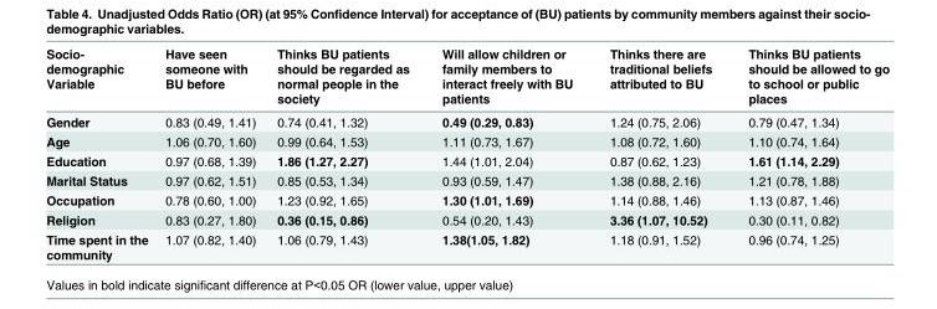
<table><thead><tr><td>Socio- demographic Variable</td><td>Have seen someone with BU before</td><td>Thinks BU patients should be regarded as normal people in the society</td><td>Will allow children or family members to interact freely with BU patients</td><td>Thinks there are traditional beliefs attributed to BU</td><td>Thinks BU patients should be allowed to go to school or public places</td></tr></thead><tbody><tr><td>Gender</td><td>0.83 (0.49, 1.41)</td><td>0.74 (0.41, 1.32)</td><td>0.49 (0.29, 0.83)</td><td>1.24 (0.75, 2.06)</td><td>0.79 (0.47, 1.34)</td></tr><tr><td>Age</td><td>1.06 (0.70, 1.60)</td><td>0.99 (0.64, 1.53)</td><td>1.11 (0.73, 1.67)</td><td>1.08 (0.72, 1.60)</td><td>1.10 (0.74, 1.64)</td></tr><tr><td>Education</td><td>0.97 (0.68, 1.39)</td><td>1.86 (1.27, 2.27)</td><td>1.44 (1.01, 2.04)</td><td>0.87 (0.62, 1.23)</td><td>1.61 (1.14, 2.29)</td></tr><tr><td>Marital Status</td><td>0.97 (0.62, 1.51)</td><td>0.85 (0.53, 1.34)</td><td>0.93 (0.59, 1.47)</td><td>1.38 (0.88, 2.16)</td><td>1.21 (0.78, 1.88)</td></tr><tr><td>Occupation</td><td>0.78 (0.60, 1.00)</td><td>1.23 (0.92, 1.65)</td><td>1.30 (1.01, 1.69)</td><td>1.14 (0.88, 1.46)</td><td>1.13 (0.87, 1.46)</td></tr><tr><td>Religion</td><td>0.83 (0.27, 1.80)</td><td>0.36 (0.15, 0.86)</td><td>0.54 (0.20, 1.43)</td><td>3.36 (1.07, 10.52)</td><td>0.30 (0.11, 0.82)</td></tr><tr><td>Time spent in the community</td><td>1.07 (0.82, 1.40)</td><td>1.06 (0.79, 1.43)</td><td>1.38(1.05, 1.82)</td><td>1.18 (0.91, 1.52)</td><td>0.96 (0.74, 1.25)</td></tr></tbody></table>